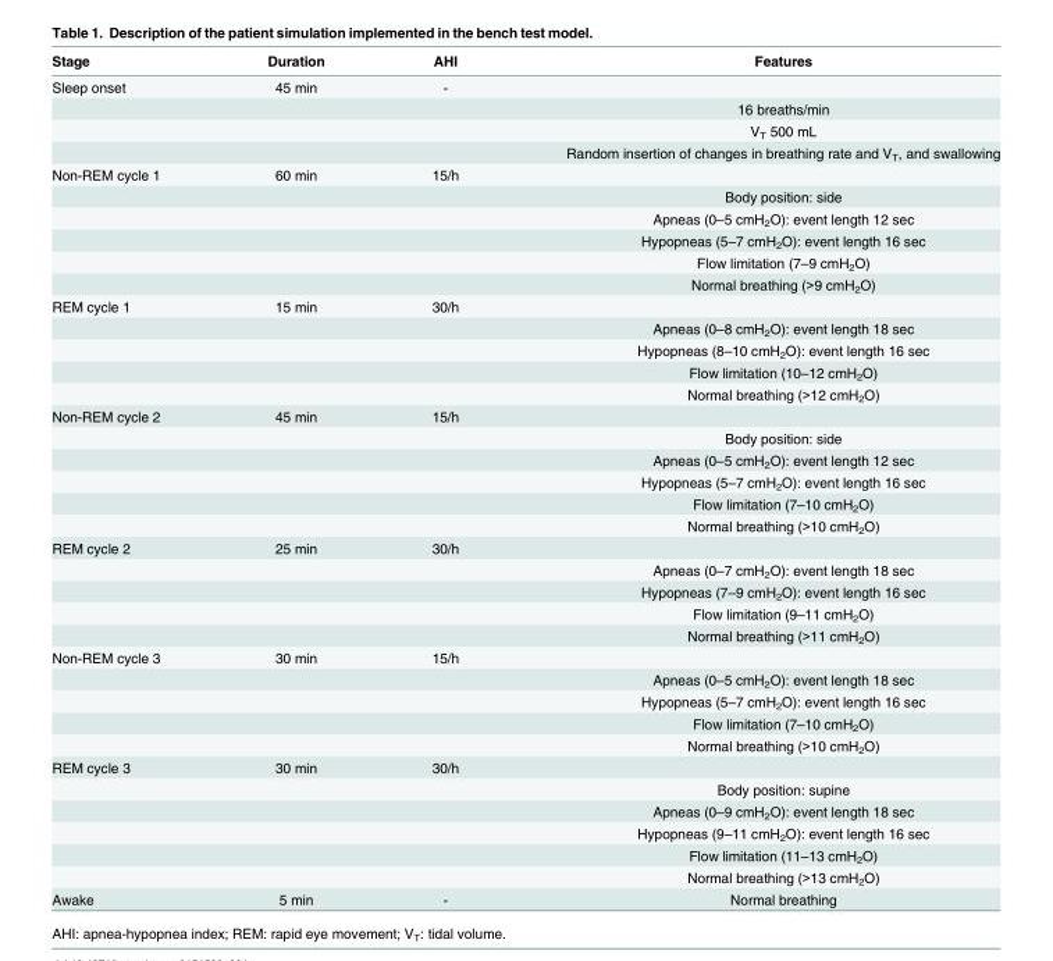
<table><thead><tr><td>Stage</td><td>Duration</td><td>AHI</td><td>Features</td></tr></thead><tbody><tr><td rowspan="4">Sleep onset</td><td>45 min</td><td>-</td><td></td></tr><tr><td></td><td></td><td>16 breaths/min</td></tr><tr><td></td><td></td><td>V<sub>T</sub> 500 mL</td></tr><tr><td></td><td></td><td>Random insertion of changes in breathing rate and V<sub>T</sub>, and swallowing</td></tr><tr><td rowspan="6">Non-REM cycle 1</td><td>60 min</td><td>15/h</td><td></td></tr><tr><td></td><td></td><td>Body position: side</td></tr><tr><td></td><td></td><td>Apneas (0–5 cmH<sub>2</sub>O): event length 12 sec</td></tr><tr><td></td><td></td><td>Hypopneas (5–7 cmH<sub>2</sub>O): event length 16 sec</td></tr><tr><td></td><td></td><td>Flow limitation (7–9 cmH<sub>2</sub>O)</td></tr><tr><td></td><td></td><td>Normal breathing (&gt;9 cmH<sub>2</sub>O)</td></tr><tr><td rowspan="5">REM cycle 1</td><td>15 min</td><td>30/h</td><td></td></tr><tr><td></td><td></td><td>Apneas (0–8 cmH<sub>2</sub>O): event length 18 sec</td></tr><tr><td></td><td></td><td>Hypopneas (8–10 cmH<sub>2</sub>O): event length 16 sec</td></tr><tr><td></td><td></td><td>Flow limitation (10–12 cmH<sub>2</sub>O)</td></tr><tr><td></td><td></td><td>Normal breathing (&gt;12 cmH<sub>2</sub>O)</td></tr><tr><td rowspan="6">Non-REM cycle 2</td><td>45 min</td><td>15/h</td><td></td></tr><tr><td></td><td></td><td>Body position: side</td></tr><tr><td></td><td></td><td>Apneas (0–5 cmH<sub>2</sub>O): event length 12 sec</td></tr><tr><td></td><td></td><td>Hypopneas (5–7 cmH<sub>2</sub>O): event length 16 sec</td></tr><tr><td></td><td></td><td>Flow limitation (7–10 cmH<sub>2</sub>O)</td></tr><tr><td></td><td></td><td>Normal breathing (&gt;10 cmH<sub>2</sub>O)</td></tr><tr><td rowspan="5">REM cycle 2</td><td>25 min</td><td>30/h</td><td></td></tr><tr><td></td><td></td><td>Apneas (0–7 cmH<sub>2</sub>O): event length 18 sec</td></tr><tr><td></td><td></td><td>Hypopneas (7–9 cmH<sub>2</sub>O): event length 16 sec</td></tr><tr><td></td><td></td><td>Flow limitation (9–11 cmH<sub>2</sub>O)</td></tr><tr><td></td><td></td><td>Normal breathing (&gt;11 cmH<sub>2</sub>O)</td></tr><tr><td rowspan="5">Non-REM cycle 3</td><td>30 min</td><td>15/h</td><td></td></tr><tr><td></td><td></td><td>Apneas (0–5 cmH<sub>2</sub>O): event length 18 sec</td></tr><tr><td></td><td></td><td>Hypopneas (5–7 cmH<sub>2</sub>O): event length 16 sec</td></tr><tr><td></td><td></td><td>Flow limitation (7–10 cmH<sub>2</sub>O)</td></tr><tr><td></td><td></td><td>Normal breathing (&gt;10 cmH<sub>2</sub>O)</td></tr><tr><td rowspan="6">REM cycle 3</td><td>30 min</td><td>30/h</td><td></td></tr><tr><td></td><td></td><td>Body position: supine</td></tr><tr><td></td><td></td><td>Apneas (0–9 cmH<sub>2</sub>O): event length 18 sec</td></tr><tr><td></td><td></td><td>Hypopneas (9–11 cmH<sub>2</sub>O): event length 16 sec</td></tr><tr><td></td><td></td><td>Flow limitation (11–13 cmH<sub>2</sub>O)</td></tr><tr><td></td><td></td><td>Normal breathing (&gt;13 cmH<sub>2</sub>O)</td></tr><tr><td>Awake</td><td>5 min</td><td>-</td><td>Normal breathing</td></tr></tbody></table>